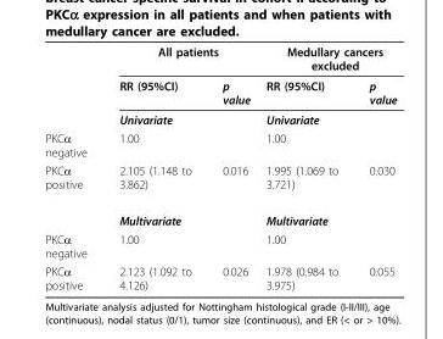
<table><thead><tr><td rowspan="2"></td><td colspan="2">All patients</td><td colspan="2">Medullary cancers excluded</td></tr><tr><td>RR (95%CI)</td><td>p value</td><td>RR (95%CI)</td><td>p value</td></tr></thead><tbody><tr><td></td><td>Univariate</td><td></td><td>Univariate</td><td></td></tr><tr><td>PKCα negative</td><td>1.00</td><td></td><td>1.00</td><td></td></tr><tr><td rowspan="2">PKCα positive</td><td>2.105 (1.148 to 3.862)</td><td>0.016</td><td>1.995 (1.069 to 3.721)</td><td>0.030</td></tr><tr><td>Multivariate</td><td></td><td>Multivariate</td><td></td></tr><tr><td>PKCα negative</td><td>1.00</td><td></td><td>1.00</td><td></td></tr><tr><td>PKCα positive</td><td>2.123 (1.092 to 4.126)</td><td>0.026</td><td>1.978 (0.984 to 3.975)</td><td>0.055</td></tr></tbody></table>